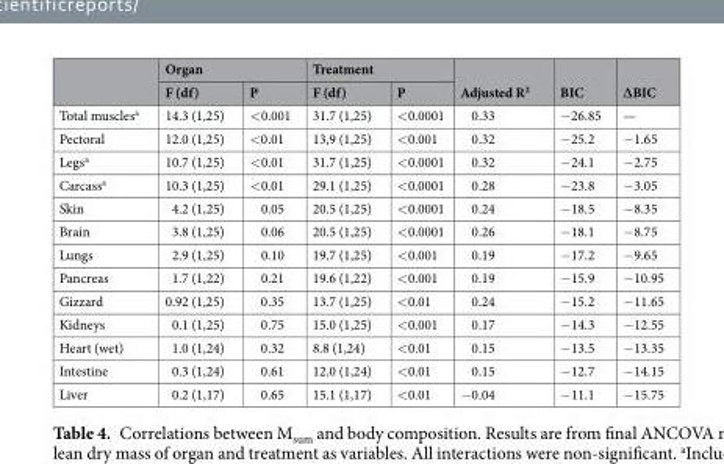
<table><thead><tr><td rowspan="2"></td><td colspan="2">Organ</td><td colspan="2">Treatment</td><td rowspan="2">Adjusted R<sup>2</sup></td><td rowspan="2">BIC</td><td rowspan="2">∆BIC</td></tr><tr><td>F (df)</td><td>P</td><td>F (df)</td><td>P</td></tr></thead><tbody><tr><td>Total muscles<sup>a</sup></td><td>14.3 (1,25)</td><td>&lt;0.001</td><td>31.7 (1,25)</td><td>&lt;0.0001</td><td>0.33</td><td>−26.85</td><td>—</td></tr><tr><td>Pectoral</td><td>12.0 (1,25)</td><td>&lt;0.01</td><td>13,9 (1,25)</td><td>&lt;0.001</td><td>0.32</td><td>−25.2</td><td>−1.65</td></tr><tr><td>Legs<sup>a</sup></td><td>10.7 (1,25)</td><td>&lt;0.01</td><td>31.7 (1,25)</td><td>&lt;0.0001</td><td>0.32</td><td>−24.1</td><td>−2.75</td></tr><tr><td>Carcass<sup>a</sup></td><td>10.3 (1,25)</td><td>&lt;0.01</td><td>29.1 (1,25)</td><td>&lt;0.0001</td><td>0.28</td><td>−23.8</td><td>−3.05</td></tr><tr><td>Skin</td><td>4.2 (1,25)</td><td>0.05</td><td>20.5 (1,25)</td><td>&lt;0.0001</td><td>0.24</td><td>−18.5</td><td>−8.35</td></tr><tr><td>Brain</td><td>3.8 (1,25)</td><td>0.06</td><td>20.5 (1,25)</td><td>&lt;0.0001</td><td>0.26</td><td>−18.1</td><td>−8.75</td></tr><tr><td>Lungs</td><td>2.9 (1,25)</td><td>0.10</td><td>19.7 (1,25)</td><td>&lt;0.001</td><td>0.19</td><td>−17.2</td><td>−9.65</td></tr><tr><td>Pancreas</td><td>1.7 (1,22)</td><td>0.21</td><td>19.6 (1,22)</td><td>&lt;0.001</td><td>0.19</td><td>−15.9</td><td>−10.95</td></tr><tr><td>Gizzard</td><td>0.92 (1,25)</td><td>0.35</td><td>13.7 (1,25)</td><td>&lt;0.01</td><td>0.24</td><td>−15.2</td><td>−11.65</td></tr><tr><td>Kidneys</td><td>0.1 (1,25)</td><td>0.75</td><td>15.0 (1,25)</td><td>&lt;0.001</td><td>0.17</td><td>−14.3</td><td>−12.55</td></tr><tr><td>Heart (wet)</td><td>1.0 (1,24)</td><td>0.32</td><td>8.8 (1,24)</td><td>&lt;0.01</td><td>0.15</td><td>−13.5</td><td>−13.35</td></tr><tr><td>Intestine</td><td>0.3 (1,24)</td><td>0.61</td><td>12.0 (1,24)</td><td>&lt;0.01</td><td>0.15</td><td>−12.7</td><td>−14.15</td></tr><tr><td>Liver</td><td>0.2 (1,17)</td><td>0.65</td><td>15.1 (1,17)</td><td>&lt;0.01</td><td>−0.04</td><td>−11.1</td><td>−15.75</td></tr></tbody></table>